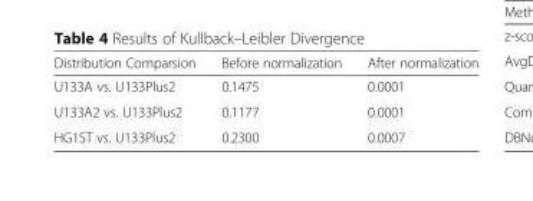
<table><thead><tr><td>Distribution Comparsion</td><td>Before normalization</td><td>After normalization</td></tr></thead><tbody><tr><td>U133A vs. U133Plus2</td><td>0.1475</td><td>0.0001</td></tr><tr><td>U133A2 vs. U133Plus2</td><td>0.1177</td><td>0.0001</td></tr><tr><td>HG1ST vs. U133Plus2</td><td>0.2300</td><td>0.0007</td></tr></tbody></table>